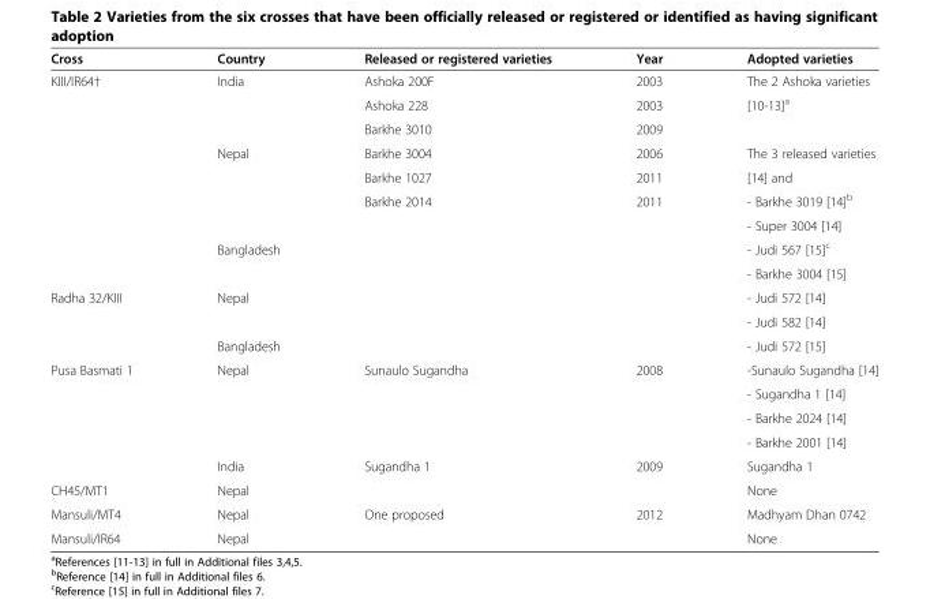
<table><thead><tr><td>Cross</td><td>Country</td><td>Released or registered varieties</td><td>Year</td><td>Adopted varieties</td></tr></thead><tbody><tr><td rowspan="9">KIII/IR64†</td><td rowspan="3">India</td><td>Ashoka 200F</td><td>2003</td><td>The 2 Ashoka varieties</td></tr><tr><td>Ashoka 228</td><td>2003</td><td>[10-13]<sup>a</sup></td></tr><tr><td>Barkhe 3010</td><td>2009</td><td></td></tr><tr><td rowspan="4">Nepal</td><td>Barkhe 3004</td><td>2006</td><td>The 3 released varieties</td></tr><tr><td>Barkhe 1027</td><td>2011</td><td>[14] and</td></tr><tr><td rowspan="2">Barkhe 2014</td><td rowspan="2">2011</td><td>- Barkhe 3019 [14]<sup>b</sup></td></tr><tr><td>- Super 3004 [14]</td></tr><tr><td rowspan="2">Bangladesh</td><td rowspan="2"></td><td rowspan="2"></td><td>- Judi 567 [15]<sup>c</sup></td></tr><tr><td>- Barkhe 3004 [15]</td></tr><tr><td rowspan="3">Radha 32/KIII</td><td rowspan="2">Nepal</td><td rowspan="2"></td><td rowspan="2"></td><td>- Judi 572 [14]</td></tr><tr><td>- Judi 582 [14]</td></tr><tr><td>Bangladesh</td><td></td><td></td><td>- Judi 572 [15]</td></tr><tr><td rowspan="5">Pusa Basmati 1</td><td rowspan="4">Nepal</td><td rowspan="4">Sunaulo Sugandha</td><td rowspan="4">2008</td><td>-Sunaulo Sugandha [14]</td></tr><tr><td>- Sugandha 1 [14]</td></tr><tr><td>- Barkhe 2024 [14]</td></tr><tr><td>- Barkhe 2001 [14]</td></tr><tr><td>India</td><td>Sugandha 1</td><td>2009</td><td>Sugandha 1</td></tr><tr><td>CH45/MT1</td><td>Nepal</td><td></td><td></td><td>None</td></tr><tr><td>Mansuli/MT4</td><td>Nepal</td><td>One proposed</td><td>2012</td><td>Madhyam Dhan 0742</td></tr><tr><td>Mansuli/IR64</td><td>Nepal</td><td></td><td></td><td>None</td></tr></tbody></table>